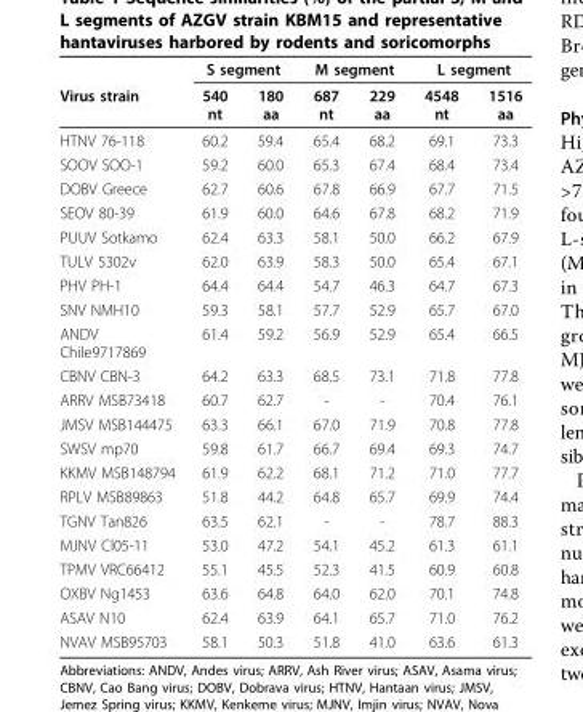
<table><thead><tr><td rowspan="2">Virus strain</td><td colspan="2">S segment</td><td colspan="2">M segment</td><td colspan="2">L segment</td></tr><tr><td>540 nt</td><td>180 aa</td><td>687 nt</td><td>229 aa</td><td>4548 nt</td><td>1516 aa</td></tr></thead><tbody><tr><td>HTNV 76-118</td><td>60.2</td><td>59.4</td><td>65.4</td><td>68.2</td><td>69.1</td><td>73.3</td></tr><tr><td>SOOV SOO-1</td><td>59.2</td><td>60.0</td><td>65.3</td><td>67.4</td><td>68.4</td><td>73.4</td></tr><tr><td>DOBV Greece</td><td>62.7</td><td>60.6</td><td>67.8</td><td>66.9</td><td>67.7</td><td>71.5</td></tr><tr><td>SEOV 80-39</td><td>61.9</td><td>60.0</td><td>64.6</td><td>67.8</td><td>68.2</td><td>71.9</td></tr><tr><td>PUUV Sotkamo</td><td>62.4</td><td>63.3</td><td>58.1</td><td>50.0</td><td>66.2</td><td>67.9</td></tr><tr><td>TULV 5302v</td><td>62.0</td><td>63.9</td><td>58.3</td><td>50.0</td><td>65.4</td><td>67.1</td></tr><tr><td>PHV PH-1</td><td>64.4</td><td>64.4</td><td>54.7</td><td>46.3</td><td>64.7</td><td>67.3</td></tr><tr><td>SNV NMH10</td><td>59.3</td><td>58.1</td><td>57.7</td><td>52.9</td><td>65.7</td><td>67.0</td></tr><tr><td>ANDV Chile9717869</td><td>61.4</td><td>59.2</td><td>56.9</td><td>52.9</td><td>65.4</td><td>66.5</td></tr><tr><td>CBNV CBN-3</td><td>64.2</td><td>63.3</td><td>68.5</td><td>73.1</td><td>71.8</td><td>77.8</td></tr><tr><td>ARRV MSB73418</td><td>60.7</td><td>62.7</td><td>-</td><td>-</td><td>70.4</td><td>76.1</td></tr><tr><td>JMSV MSB144475</td><td>63.3</td><td>66.1</td><td>67.0</td><td>71.9</td><td>70.8</td><td>77.8</td></tr><tr><td>SWSV mp70</td><td>59.8</td><td>61.7</td><td>66.7</td><td>69.4</td><td>69.3</td><td>74.7</td></tr><tr><td>KKMV MSB148794</td><td>61.9</td><td>62.2</td><td>68.1</td><td>71.2</td><td>71.0</td><td>77.7</td></tr><tr><td>RPLV MSB89863</td><td>51.8</td><td>44.2</td><td>64.8</td><td>65.7</td><td>69.9</td><td>74.4</td></tr><tr><td>TGNV Tan826</td><td>63.5</td><td>62.1</td><td>-</td><td>-</td><td>78.7</td><td>88.3</td></tr><tr><td>MJNV Cl05-11</td><td>53.0</td><td>47.2</td><td>54.1</td><td>45.2</td><td>61.3</td><td>61.1</td></tr><tr><td>TPMV VRC66412</td><td>55.1</td><td>45.5</td><td>52.3</td><td>41.5</td><td>60.9</td><td>60.8</td></tr><tr><td>OXBV Ng1453</td><td>63.6</td><td>64.8</td><td>64.0</td><td>62.0</td><td>70.1</td><td>74.8</td></tr><tr><td>ASAV N10</td><td>62.4</td><td>63.9</td><td>64.1</td><td>65.7</td><td>71.0</td><td>76.2</td></tr><tr><td>NVAV MSB95703</td><td>58.1</td><td>50.3</td><td>51.8</td><td>41.0</td><td>63.6</td><td>61.3</td></tr></tbody></table>